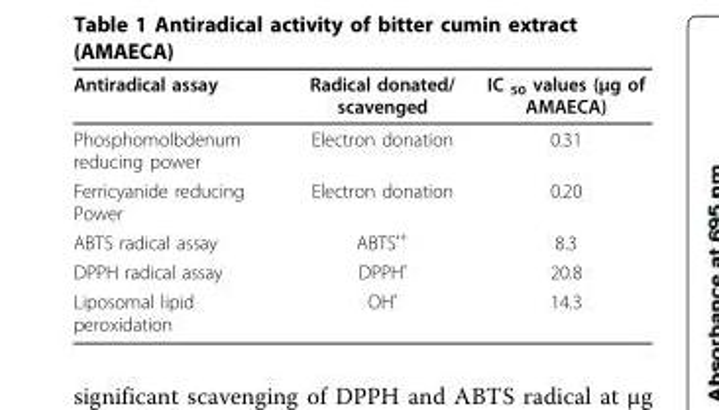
<table><thead><tr><td>Antiradical assay</td><td>Radical donated/ scavenged</td><td>IC <sub>50</sub> values (μg of AMAECA)</td></tr></thead><tbody><tr><td>Phosphomolbdenum reducing power</td><td>Electron donation</td><td>0.31</td></tr><tr><td>Ferricyanide reducing Power</td><td>Electron donation</td><td>0.20</td></tr><tr><td>ABTS radical assay</td><td>ABTS<sup>•+</sup></td><td>8.3</td></tr><tr><td>DPPH radical assay</td><td>DPPH<sup>•</sup></td><td>20.8</td></tr><tr><td>Liposomal lipid peroxidation</td><td>OH<sup>•</sup></td><td>14.3</td></tr></tbody></table>